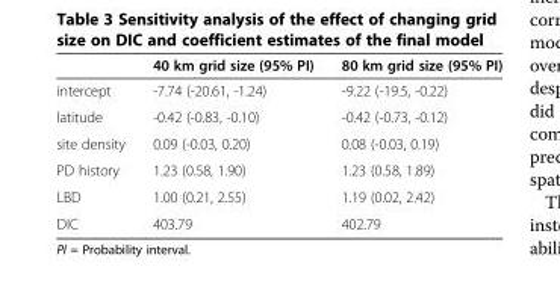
<table><thead><tr><td></td><td>40 km grid size (95% PI)</td><td>80 km grid size (95% PI)</td></tr></thead><tbody><tr><td>intercept</td><td>-7.74 (-20.61, -1.24)</td><td>-9.22 (-19.5, -0.22)</td></tr><tr><td>latitude</td><td>-0.42 (-0.83, -0.10)</td><td>-0.42 (-0.73, -0.12)</td></tr><tr><td>site density</td><td>0.09 (-0.03, 0.20)</td><td>0.08 (-0.03, 0.19)</td></tr><tr><td>PD history</td><td>1.23 (0.58, 1.90)</td><td>1.23 (0.58, 1.89)</td></tr><tr><td>LBD</td><td>1.00 (0.21, 2.55)</td><td>1.19 (0.02, 2.42)</td></tr><tr><td>DIC</td><td>403.79</td><td>402.79</td></tr></tbody></table>